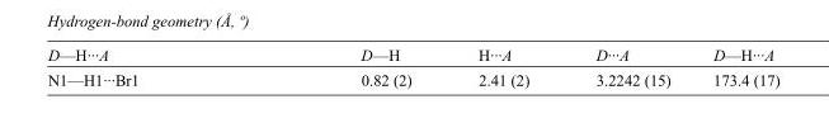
<table><tbody><tr><td>D—H···A</td><td>D—H</td><td>H···A</td><td>D···A</td><td>D—H···A</td></tr><tr><td>N1—H1···Br1</td><td>0.82 (2)</td><td>2.41 (2)</td><td>3.2242 (15)</td><td>173.4 (17)</td></tr></tbody></table>